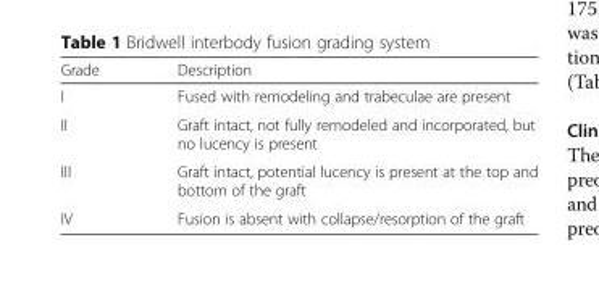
<table><thead><tr><td>Grade</td><td>Description</td></tr></thead><tbody><tr><td>I</td><td>Fused with remodeling and trabeculae are present</td></tr><tr><td>II</td><td>Graft intact, not fully remodeled and incorporated, but no lucency is present</td></tr><tr><td>III</td><td>Graft intact, potential lucency is present at the top and bottom of the graft</td></tr><tr><td>IV</td><td>Fusion is absent with collapse/resorption of the graft</td></tr></tbody></table>